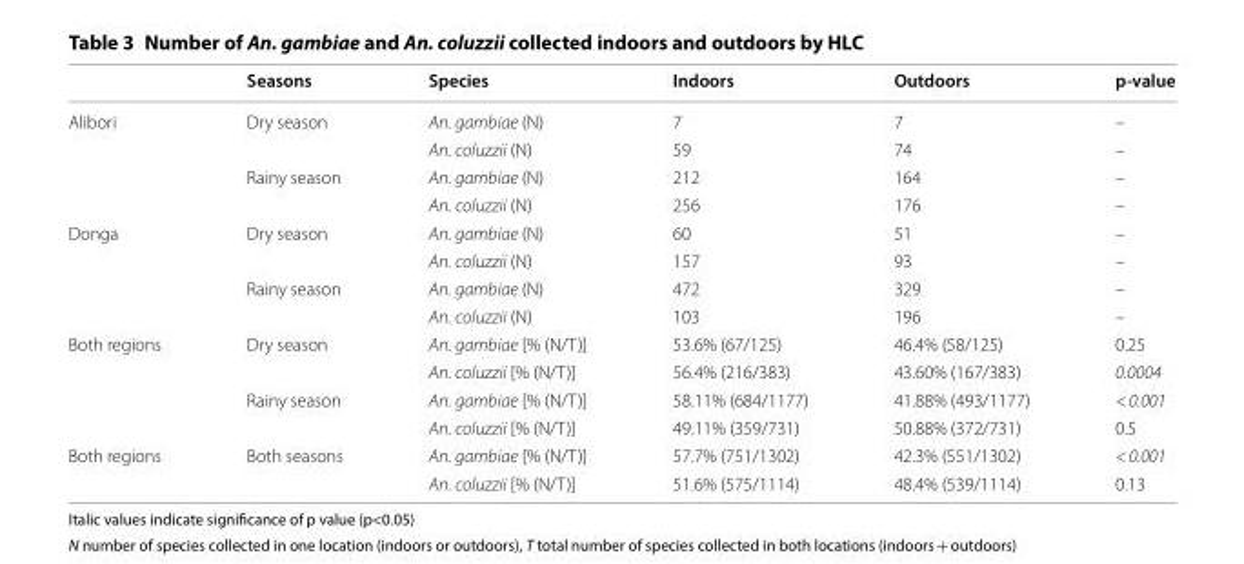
<table><thead><tr><td></td><td>Seasons</td><td>Species</td><td>Indoors</td><td>Outdoors</td><td>p‑value</td></tr></thead><tbody><tr><td rowspan="4">Alibori</td><td rowspan="2">Dry season</td><td>An. gambiae (N)</td><td>7</td><td>7</td><td>–</td></tr><tr><td>An. coluzzii (N)</td><td>59</td><td>74</td><td>–</td></tr><tr><td rowspan="2">Rainy season</td><td>An. gambiae (N)</td><td>212</td><td>164</td><td>–</td></tr><tr><td>An. coluzzii (N)</td><td>256</td><td>176</td><td>–</td></tr><tr><td rowspan="4">Donga</td><td rowspan="2">Dry season</td><td>An. gambiae (N)</td><td>60</td><td>51</td><td>–</td></tr><tr><td>An. coluzzii (N)</td><td>157</td><td>93</td><td>–</td></tr><tr><td rowspan="2">Rainy season</td><td>An. gambiae (N)</td><td>472</td><td>329</td><td>–</td></tr><tr><td>An. coluzzii (N)</td><td>103</td><td>196</td><td>–</td></tr><tr><td rowspan="4">Both regions</td><td rowspan="2">Dry season</td><td>An. gambiae [% (N/T)]</td><td>53.6% (67/125)</td><td>46.4% (58/125)</td><td>0.25</td></tr><tr><td>An. coluzzii [% (N/T)]</td><td>56.4% (216/383)</td><td>43.60% (167/383)</td><td>0.0004</td></tr><tr><td rowspan="2">Rainy season</td><td>An. gambiae [% (N/T)]</td><td>58.11% (684/1177)</td><td>41.88% (493/1177)</td><td>&lt; 0.001</td></tr><tr><td>An. coluzzii [% (N/T)]</td><td>49.11% (359/731)</td><td>50.88% (372/731)</td><td>0.5</td></tr><tr><td rowspan="2">Both regions</td><td rowspan="2">Both seasons</td><td>An. gambiae [% (N/T)]</td><td>57.7% (751/1302)</td><td>42.3% (551/1302)</td><td>&lt; 0.001</td></tr><tr><td>An. coluzzii [% (N/T)]</td><td>51.6% (575/1114)</td><td>48.4% (539/1114)</td><td>0.13</td></tr></tbody></table>